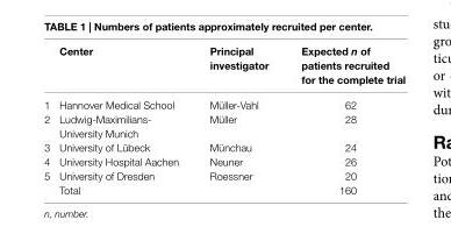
<table><thead><tr><td></td><td>Center</td><td>Principal investigator</td><td>Expected n of patients recruited for the complete trial</td></tr></thead><tbody><tr><td>1</td><td>Hannover Medical School</td><td>Müller-Vahl</td><td>62</td></tr><tr><td>2</td><td>Ludwig-Maximilians- University Munich</td><td>Müller</td><td>28</td></tr><tr><td>3</td><td>University of Lübeck</td><td>Münchau</td><td>24</td></tr><tr><td>4</td><td>University Hospital Aachen</td><td>Neuner</td><td>26</td></tr><tr><td rowspan="2">5</td><td>University of Dresden</td><td>Roessner</td><td>20</td></tr><tr><td>Total</td><td></td><td>160</td></tr></tbody></table>